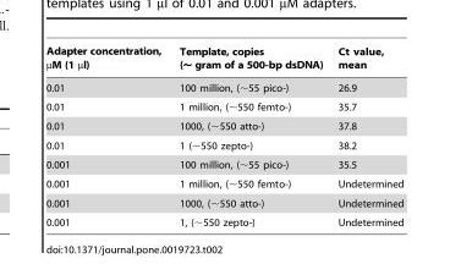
<table><thead><tr><td>Adapter concentration, µM (1 µl)</td><td>Template, copies (∼ gram of a 500-bp dsDNA)</td><td>Ct value, mean</td></tr></thead><tbody><tr><td>0.01</td><td>100 million, (∼55 pico-)</td><td>26.9</td></tr><tr><td>0.01</td><td>1 million, (∼550 femto-)</td><td>35.7</td></tr><tr><td>0.01</td><td>1000, (∼550 atto-)</td><td>37.8</td></tr><tr><td>0.01</td><td>1 (∼550 zepto-)</td><td>38.2</td></tr><tr><td>0.001</td><td>100 million, (∼55 pico-)</td><td>35.5</td></tr><tr><td>0.001</td><td>1 million, (∼550 femto-)</td><td>Undetermined</td></tr><tr><td>0.001</td><td>1000, (∼550 atto-)</td><td>Undetermined</td></tr><tr><td>0.001</td><td>1, (∼550 zepto-)</td><td>Undetermined</td></tr></tbody></table>